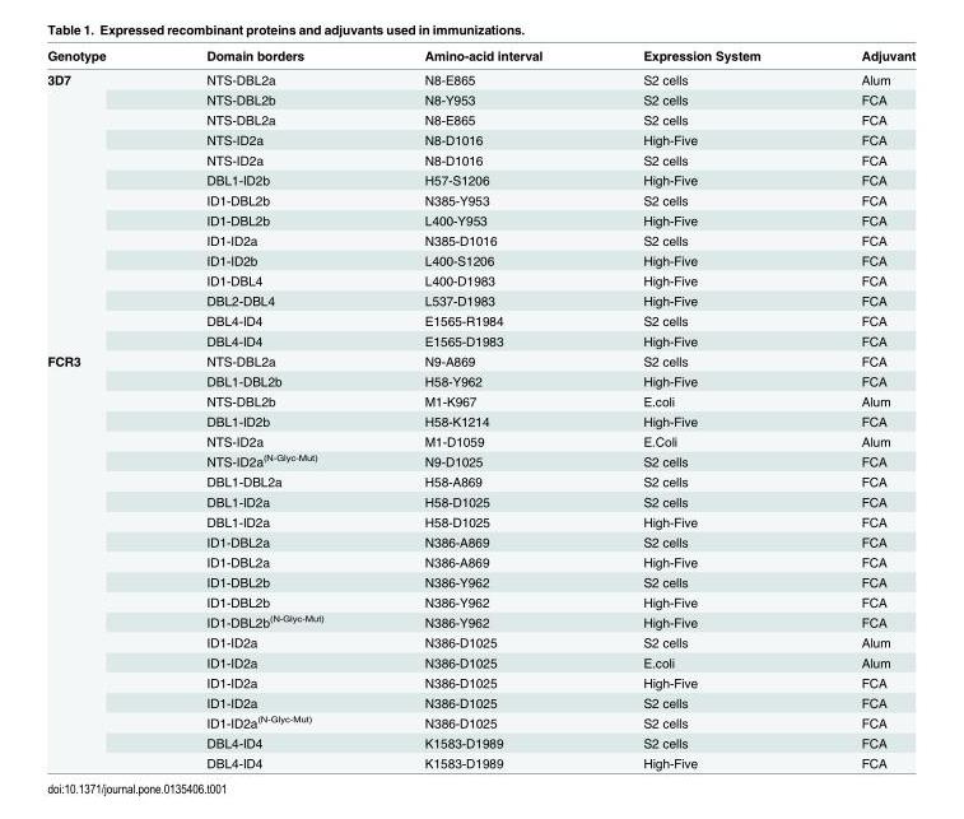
<table><thead><tr><td>Genotype</td><td>Domain borders</td><td>Amino-acid interval</td><td>Expression System</td><td>Adjuvant</td></tr></thead><tbody><tr><td rowspan="14">3D7</td><td>NTS-DBL2a</td><td>N8-E865</td><td>S2 cells</td><td>Alum</td></tr><tr><td>NTS-DBL2b</td><td>N8-Y953</td><td>S2 cells</td><td>FCA</td></tr><tr><td>NTS-DBL2a</td><td>N8-E865</td><td>S2 cells</td><td>FCA</td></tr><tr><td>NTS-ID2a</td><td>N8-D1016</td><td>High-Five</td><td>FCA</td></tr><tr><td>NTS-ID2a</td><td>N8-D1016</td><td>S2 cells</td><td>FCA</td></tr><tr><td>DBL1-ID2b</td><td>H57-S1206</td><td>High-Five</td><td>FCA</td></tr><tr><td>ID1-DBL2b</td><td>N385-Y953</td><td>S2 cells</td><td>FCA</td></tr><tr><td>ID1-DBL2b</td><td>L400-Y953</td><td>High-Five</td><td>FCA</td></tr><tr><td>ID1-ID2a</td><td>N385-D1016</td><td>S2 cells</td><td>FCA</td></tr><tr><td>ID1-ID2b</td><td>L400-S1206</td><td>High-Five</td><td>FCA</td></tr><tr><td>ID1-DBL4</td><td>L400-D1983</td><td>High-Five</td><td>FCA</td></tr><tr><td>DBL2-DBL4</td><td>L537-D1983</td><td>High-Five</td><td>FCA</td></tr><tr><td>DBL4-ID4</td><td>E1565-R1984</td><td>S2 cells</td><td>FCA</td></tr><tr><td>DBL4-ID4</td><td>E1565-D1983</td><td>High-Five</td><td>FCA</td></tr><tr><td rowspan="21">FCR3</td><td>NTS-DBL2a</td><td>N9-A869</td><td>S2 cells</td><td>FCA</td></tr><tr><td>DBL1-DBL2b</td><td>H58-Y962</td><td>High-Five</td><td>FCA</td></tr><tr><td>NTS-DBL2b</td><td>M1-K967</td><td>E.coli</td><td>Alum</td></tr><tr><td>DBL1-ID2b</td><td>H58-K1214</td><td>High-Five</td><td>FCA</td></tr><tr><td>NTS-ID2a</td><td>M1-D1059</td><td>E.Coli</td><td>Alum</td></tr><tr><td>NTS-ID2a<sup>(N-Glyc-Mut)</sup></td><td>N9-D1025</td><td>S2 cells</td><td>FCA</td></tr><tr><td>DBL1-DBL2a</td><td>H58-A869</td><td>S2 cells</td><td>FCA</td></tr><tr><td>DBL1-ID2a</td><td>H58-D1025</td><td>S2 cells</td><td>FCA</td></tr><tr><td>DBL1-ID2a</td><td>H58-D1025</td><td>High-Five</td><td>FCA</td></tr><tr><td>ID1-DBL2a</td><td>N386-A869</td><td>S2 cells</td><td>FCA</td></tr><tr><td>ID1-DBL2a</td><td>N386-A869</td><td>High-Five</td><td>FCA</td></tr><tr><td>ID1-DBL2b</td><td>N386-Y962</td><td>S2 cells</td><td>FCA</td></tr><tr><td>ID1-DBL2b</td><td>N386-Y962</td><td>High-Five</td><td>FCA</td></tr><tr><td>ID1-DBL2b<sup>(N-Glyc-Mut)</sup></td><td>N386-Y962</td><td>High-Five</td><td>FCA</td></tr><tr><td>ID1-ID2a</td><td>N386-D1025</td><td>S2 cells</td><td>Alum</td></tr><tr><td>ID1-ID2a</td><td>N386-D1025</td><td>E.coli</td><td>Alum</td></tr><tr><td>ID1-ID2a</td><td>N386-D1025</td><td>High-Five</td><td>FCA</td></tr><tr><td>ID1-ID2a</td><td>N386-D1025</td><td>S2 cells</td><td>FCA</td></tr><tr><td>ID1-ID2a<sup>(N-Glyc-Mut)</sup></td><td>N386-D1025</td><td>S2 cells</td><td>FCA</td></tr><tr><td>DBL4-ID4</td><td>K1583-D1989</td><td>S2 cells</td><td>FCA</td></tr><tr><td>DBL4-ID4</td><td>K1583-D1989</td><td>High-Five</td><td>FCA</td></tr></tbody></table>